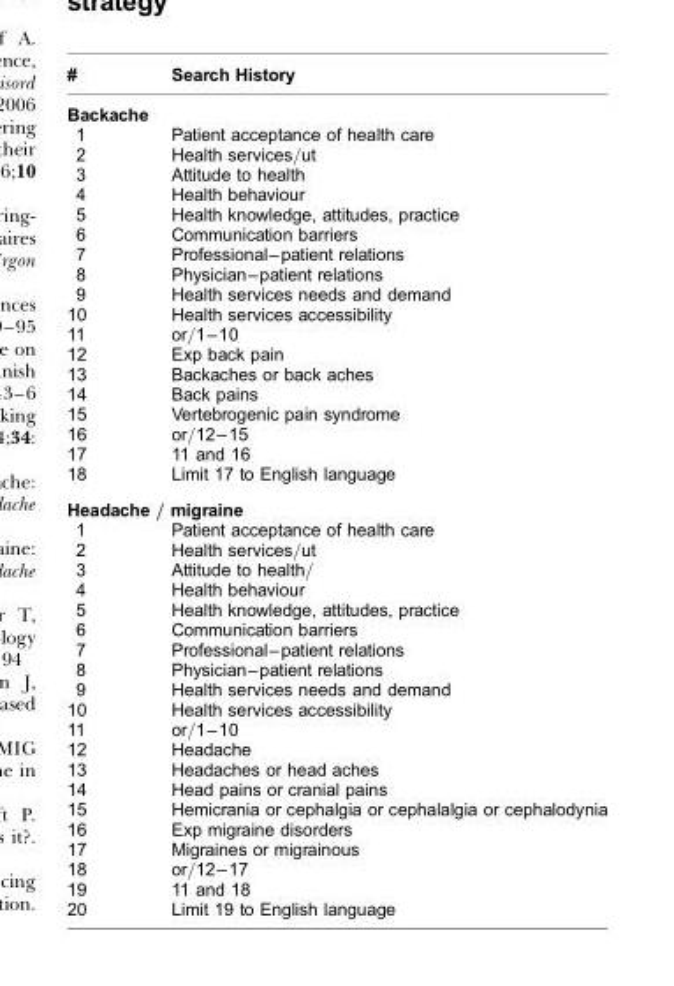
<table><thead><tr><td>#</td><td>Search History</td></tr></thead><tbody><tr><td colspan="2">Backache</td></tr><tr><td>1</td><td>Patient acceptance of health care</td></tr><tr><td>2</td><td>Health services/ut</td></tr><tr><td>3</td><td>Attitude to health</td></tr><tr><td>4</td><td>Health behaviour</td></tr><tr><td>5</td><td>Health knowledge, attitudes, practice</td></tr><tr><td>6</td><td>Communication barriers</td></tr><tr><td>7</td><td>Professional–patient relations</td></tr><tr><td>8</td><td>Physician–patient relations</td></tr><tr><td>9</td><td>Health services needs and demand</td></tr><tr><td>10</td><td>Health services accessibility</td></tr><tr><td>11</td><td>or/1–10</td></tr><tr><td>12</td><td>Exp back pain</td></tr><tr><td>13</td><td>Backaches or back aches</td></tr><tr><td>14</td><td>Back pains</td></tr><tr><td>15</td><td>Vertebrogenic pain syndrome</td></tr><tr><td>16</td><td>or/12–15</td></tr><tr><td>17</td><td>11 and 16</td></tr><tr><td>18</td><td>Limit 17 to English language</td></tr><tr><td colspan="2">Headache / migraine</td></tr><tr><td>1</td><td>Patient acceptance of health care</td></tr><tr><td>2</td><td>Health services/ut</td></tr><tr><td>3</td><td>Attitude to health/</td></tr><tr><td>4</td><td>Health behaviour</td></tr><tr><td>5</td><td>Health knowledge, attitudes, practice</td></tr><tr><td>6</td><td>Communication barriers</td></tr><tr><td>7</td><td>Professional–patient relations</td></tr><tr><td>8</td><td>Physician–patient relations</td></tr><tr><td>9</td><td>Health services needs and demand</td></tr><tr><td>10</td><td>Health services accessibility</td></tr><tr><td>11</td><td>or/1–10</td></tr><tr><td>12</td><td>Headache</td></tr><tr><td>13</td><td>Headaches or head aches</td></tr><tr><td>14</td><td>Head pains or cranial pains</td></tr><tr><td>15</td><td>Hemicrania or cephalgia or cephalalgia or cephalodynia</td></tr><tr><td>16</td><td>Exp migraine disorders</td></tr><tr><td>17</td><td>Migraines or migrainous</td></tr><tr><td>18</td><td>or/12–17</td></tr><tr><td>19</td><td>11 and 18</td></tr><tr><td>20</td><td>Limit 19 to English language</td></tr></tbody></table>